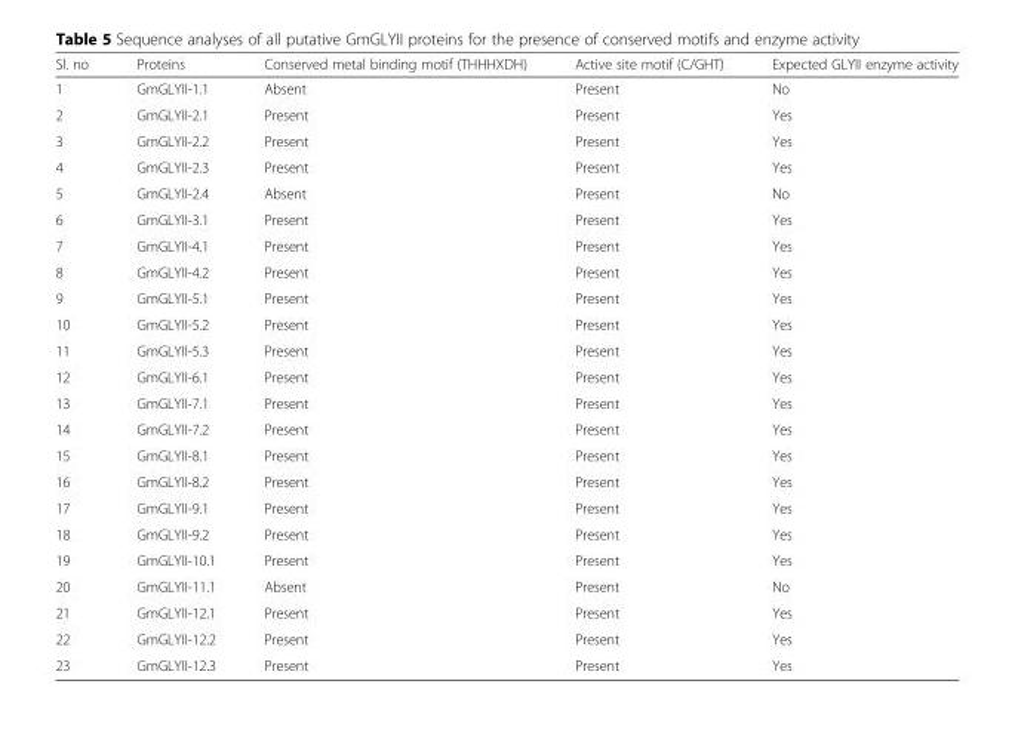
<table><thead><tr><td>Sl. no</td><td>Proteins</td><td>Conserved metal binding motif (THHHXDH)</td><td>Active site motif (C/GHT)</td><td>Expected GLYII enzyme activity</td></tr></thead><tbody><tr><td>1</td><td>GmGLYII-1.1</td><td>Absent</td><td>Present</td><td>No</td></tr><tr><td>2</td><td>GmGLYII-2.1</td><td>Present</td><td>Present</td><td>Yes</td></tr><tr><td>3</td><td>GmGLYII-2.2</td><td>Present</td><td>Present</td><td>Yes</td></tr><tr><td>4</td><td>GmGLYII-2.3</td><td>Present</td><td>Present</td><td>Yes</td></tr><tr><td>5</td><td>GmGLYII-2.4</td><td>Absent</td><td>Present</td><td>No</td></tr><tr><td>6</td><td>GmGLYII-3.1</td><td>Present</td><td>Present</td><td>Yes</td></tr><tr><td>7</td><td>GmGLYII-4.1</td><td>Present</td><td>Present</td><td>Yes</td></tr><tr><td>8</td><td>GmGLYII-4.2</td><td>Present</td><td>Present</td><td>Yes</td></tr><tr><td>9</td><td>GmGLYII-5.1</td><td>Present</td><td>Present</td><td>Yes</td></tr><tr><td>10</td><td>GmGLYII-5.2</td><td>Present</td><td>Present</td><td>Yes</td></tr><tr><td>11</td><td>GmGLYII-5.3</td><td>Present</td><td>Present</td><td>Yes</td></tr><tr><td>12</td><td>GmGLYII-6.1</td><td>Present</td><td>Present</td><td>Yes</td></tr><tr><td>13</td><td>GmGLYII-7.1</td><td>Present</td><td>Present</td><td>Yes</td></tr><tr><td>14</td><td>GmGLYII-7.2</td><td>Present</td><td>Present</td><td>Yes</td></tr><tr><td>15</td><td>GmGLYII-8.1</td><td>Present</td><td>Present</td><td>Yes</td></tr><tr><td>16</td><td>GmGLYII-8.2</td><td>Present</td><td>Present</td><td>Yes</td></tr><tr><td>17</td><td>GmGLYII-9.1</td><td>Present</td><td>Present</td><td>Yes</td></tr><tr><td>18</td><td>GmGLYII-9.2</td><td>Present</td><td>Present</td><td>Yes</td></tr><tr><td>19</td><td>GmGLYII-10.1</td><td>Present</td><td>Present</td><td>Yes</td></tr><tr><td>20</td><td>GmGLYII-11.1</td><td>Absent</td><td>Present</td><td>No</td></tr><tr><td>21</td><td>GmGLYII-12.1</td><td>Present</td><td>Present</td><td>Yes</td></tr><tr><td>22</td><td>GmGLYII-12.2</td><td>Present</td><td>Present</td><td>Yes</td></tr><tr><td>23</td><td>GmGLYII-12.3</td><td>Present</td><td>Present</td><td>Yes</td></tr></tbody></table>